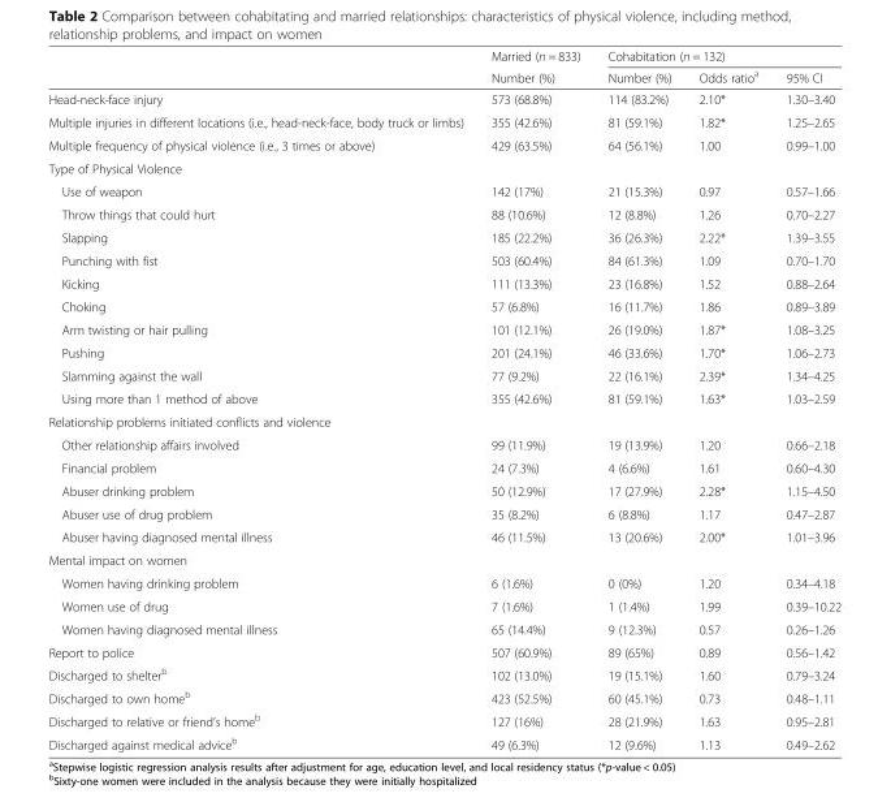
<table><thead><tr><td rowspan="2"></td><td rowspan="2">Married (n = 833) Number (%)</td><td colspan="3">Cohabitation (n = 132)</td></tr><tr><td>Number (%)</td><td>Odds ratio<sup>a</sup></td><td>95% CI</td></tr></thead><tbody><tr><td>Head-neck-face injury</td><td>573 (68.8%)</td><td>114 (83.2%)</td><td>2.10*</td><td>1.30–3.40</td></tr><tr><td>Multiple injuries in different locations (i.e., head-neck-face, body truck or limbs)</td><td>355 (42.6%)</td><td>81 (59.1%)</td><td>1.82*</td><td>1.25–2.65</td></tr><tr><td>Multiple frequency of physical violence (i.e., 3 times or above)</td><td>429 (63.5%)</td><td>64 (56.1%)</td><td>1.00</td><td>0.99–1.00</td></tr><tr><td colspan="5">Type of Physical Violence</td></tr><tr><td>Use of weapon</td><td>142 (17%)</td><td>21 (15.3%)</td><td>0.97</td><td>0.57–1.66</td></tr><tr><td>Throw things that could hurt</td><td>88 (10.6%)</td><td>12 (8.8%)</td><td>1.26</td><td>0.70–2.27</td></tr><tr><td>Slapping</td><td>185 (22.2%)</td><td>36 (26.3%)</td><td>2.22*</td><td>1.39–3.55</td></tr><tr><td>Punching with fist</td><td>503 (60.4%)</td><td>84 (61.3%)</td><td>1.09</td><td>0.70–1.70</td></tr><tr><td>Kicking</td><td>111 (13.3%)</td><td>23 (16.8%)</td><td>1.52</td><td>0.88–2.64</td></tr><tr><td>Choking</td><td>57 (6.8%)</td><td>16 (11.7%)</td><td>1.86</td><td>0.89–3.89</td></tr><tr><td>Arm twisting or hair pulling</td><td>101 (12.1%)</td><td>26 (19.0%)</td><td>1.87*</td><td>1.08–3.25</td></tr><tr><td>Pushing</td><td>201 (24.1%)</td><td>46 (33.6%)</td><td>1.70*</td><td>1.06–2.73</td></tr><tr><td>Slamming against the wall</td><td>77 (9.2%)</td><td>22 (16.1%)</td><td>2.39*</td><td>1.34–4.25</td></tr><tr><td>Using more than 1 method of above</td><td>355 (42.6%)</td><td>81 (59.1%)</td><td>1.63*</td><td>1.03–2.59</td></tr><tr><td colspan="5">Relationship problems initiated conflicts and violence</td></tr><tr><td>Other relationship affairs involved</td><td>99 (11.9%)</td><td>19 (13.9%)</td><td>1.20</td><td>0.66–2.18</td></tr><tr><td>Financial problem</td><td>24 (7.3%)</td><td>4 (6.6%)</td><td>1.61</td><td>0.60–4.30</td></tr><tr><td>Abuser drinking problem</td><td>50 (12.9%)</td><td>17 (27.9%)</td><td>2.28*</td><td>1.15–4.50</td></tr><tr><td>Abuser use of drug problem</td><td>35 (8.2%)</td><td>6 (8.8%)</td><td>1.17</td><td>0.47–2.87</td></tr><tr><td>Abuser having diagnosed mental illness</td><td>46 (11.5%)</td><td>13 (20.6%)</td><td>2.00*</td><td>1.01–3.96</td></tr><tr><td colspan="5">Mental impact on women</td></tr><tr><td>Women having drinking problem</td><td>6 (1.6%)</td><td>0 (0%)</td><td>1.20</td><td>0.34–4.18</td></tr><tr><td>Women use of drug</td><td>7 (1.6%)</td><td>1 (1.4%)</td><td>1.99</td><td>0.39–10.22</td></tr><tr><td>Women having diagnosed mental illness</td><td>65 (14.4%)</td><td>9 (12.3%)</td><td>0.57</td><td>0.26–1.26</td></tr><tr><td>Report to police</td><td>507 (60.9%)</td><td>89 (65%)</td><td>0.89</td><td>0.56–1.42</td></tr><tr><td>Discharged to shelter<sup>b</sup></td><td>102 (13.0%)</td><td>19 (15.1%)</td><td>1.60</td><td>0.79–3.24</td></tr><tr><td>Discharged to own home<sup>b</sup></td><td>423 (52.5%)</td><td>60 (45.1%)</td><td>0.73</td><td>0.48–1.11</td></tr><tr><td>Discharged to relative or friend’s home<sup>b</sup></td><td>127 (16%)</td><td>28 (21.9%)</td><td>1.63</td><td>0.95–2.81</td></tr><tr><td>Discharged against medical advice<sup>b</sup></td><td>49 (6.3%)</td><td>12 (9.6%)</td><td>1.13</td><td>0.49–2.62</td></tr></tbody></table>